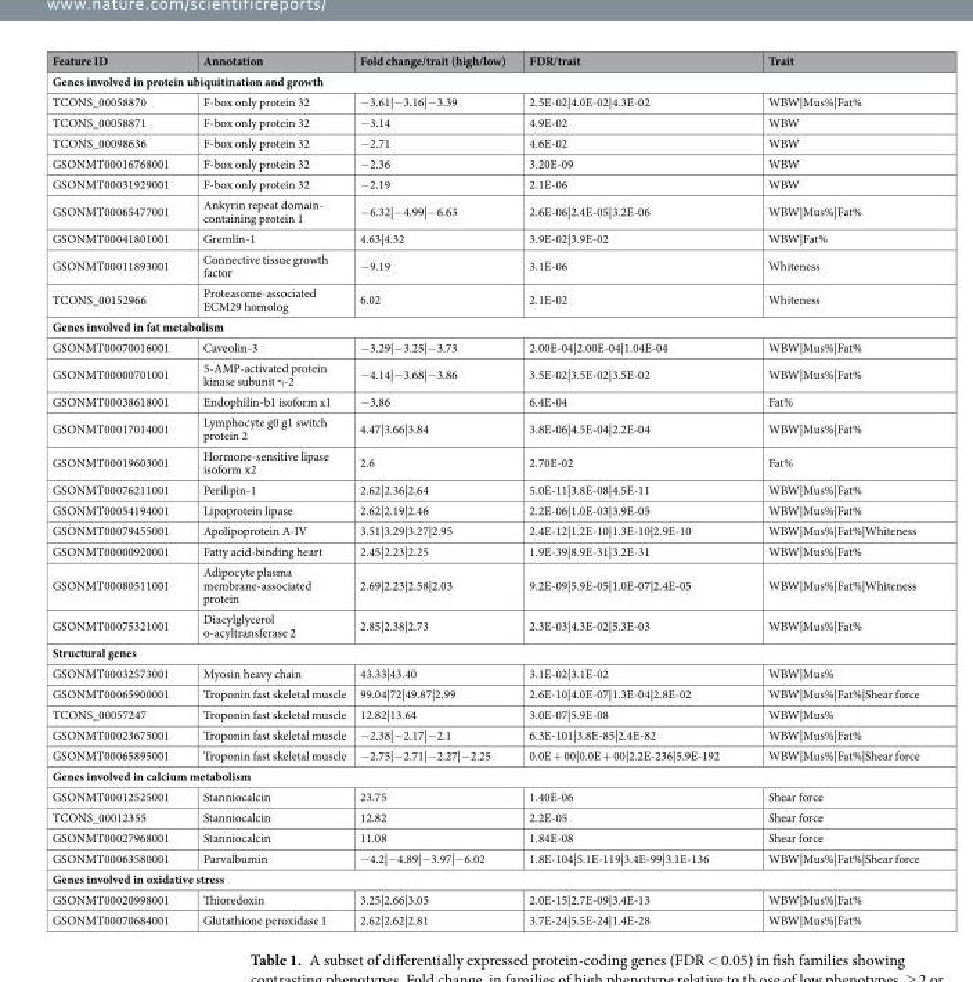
<table><thead><tr><td>Feature ID</td><td>Annotation</td><td>Fold change/trait (high/low)</td><td>FDR/trait</td><td>Trait</td></tr></thead><tbody><tr><td colspan="5">Genes involved in protein ubiquitination and growth</td></tr><tr><td>TCONS_00058870</td><td>F-box only protein 32</td><td>−3.61|−3.16|−3.39</td><td>2.5E-02|4.0E-02|4.3E-02</td><td>WBW|Mus%|Fat%</td></tr><tr><td>TCONS_00058871</td><td>F-box only protein 32</td><td>−3.14</td><td>4.9E-02</td><td>WBW</td></tr><tr><td>TCONS_00098636</td><td>F-box only protein 32</td><td>−2.71</td><td>4.6E-02</td><td>WBW</td></tr><tr><td>GSONMT00016768001</td><td>F-box only protein 32</td><td>−2.36</td><td>3.20E-09</td><td>WBW</td></tr><tr><td>GSONMT00031929001</td><td>F-box only protein 32</td><td>−2.19</td><td>2.1E-06</td><td>WBW</td></tr><tr><td>GSONMT00065477001</td><td>Ankyrin repeat domain- containing protein 1</td><td>−6.32|−4.99|−6.63</td><td>2.6E-06|2.4E-05|3.2E-06</td><td>WBW|Mus%|Fat%</td></tr><tr><td>GSONMT00041801001</td><td>Gremlin-1</td><td>4.63|4.32</td><td>3.9E-02|3.9E-02</td><td>WBW|Fat%</td></tr><tr><td>GSONMT00011893001</td><td>Connective tissue growth factor</td><td>−9.19</td><td>3.1E-06</td><td>Whiteness</td></tr><tr><td>TCONS_00152966</td><td>Proteasome-associated ECM29 homolog</td><td>6.02</td><td>2.1E-02</td><td>Whiteness</td></tr><tr><td colspan="5">Genes involved in fat metabolism</td></tr><tr><td>GSONMT00070016001</td><td>Caveolin-3</td><td>−3.29|−3.25|−3.73</td><td>2.00E-04|2.00E-04|1.04E-04</td><td>WBW|Mus%|Fat%</td></tr><tr><td>GSONMT00000701001</td><td>5-AMP-activated protein kinase subunit γ-2</td><td>−4.14|−3.68|−3.86</td><td>3.5E-02|3.5E-02|3.5E-02</td><td>WBW|Mus%|Fat%</td></tr><tr><td>GSONMT00038618001</td><td>Endophilin-b1 isoform x1</td><td>−3.86</td><td>6.4E-04</td><td>Fat%</td></tr><tr><td>GSONMT00017014001</td><td>Lymphocyte g0 g1 switch protein 2</td><td>4.47|3.66|3.84</td><td>3.8E-06|4.5E-04|2.2E-04</td><td>WBW|Mus%|Fat%</td></tr><tr><td>GSONMT00019603001</td><td>Hormone-sensitive lipase isoform x2</td><td>2.6</td><td>2.70E-02</td><td>Fat%</td></tr><tr><td>GSONMT00076211001</td><td>Perilipin-1</td><td>2.62|2.36|2.64</td><td>5.0E-11|3.8E-08|4.5E-11</td><td>WBW|Mus%|Fat%</td></tr><tr><td>GSONMT00054194001</td><td>Lipoprotein lipase</td><td>2.62|2.19|2.46</td><td>2.2E-06|1.0E-03|3.9E-05</td><td>WBW|Mus%|Fat%</td></tr><tr><td>GSONMT00079455001</td><td>Apolipoprotein A-IV</td><td>3.51|3.29|3.27|2.95</td><td>2.4E-12|1.2E-10|1.3E-10|2.9E-10</td><td>WBW|Mus%|Fat%|Whiteness</td></tr><tr><td>GSONMT00000920001</td><td>Fatty acid-binding heart</td><td>2.45|2.23|2.25</td><td>1.9E-39|8.9E-31|3.2E-31</td><td>WBW|Mus%|Fat%</td></tr><tr><td>GSONMT00080511001</td><td>Adipocyte plasma membrane-associated protein</td><td>2.69|2.23|2.58|2.03</td><td>9.2E-09|5.9E-05|1.0E-07|2.4E-05</td><td>WBW|Mus%|Fat%|Whiteness</td></tr><tr><td>GSONMT00075321001</td><td>Diacylglycerol o-acyltransferase 2</td><td>2.85|2.38|2.73</td><td>2.3E-03|4.3E-02|5.3E-03</td><td>WBW|Mus%|Fat%</td></tr><tr><td colspan="5">Structural genes</td></tr><tr><td>GSONMT00032573001</td><td>Myosin heavy chain</td><td>43.33|43.40</td><td>3.1E-02|3.1E-02</td><td>WBW|Mus%</td></tr><tr><td>GSONMT00065900001</td><td>Troponin fast skeletal muscle</td><td>99.04|72|49.87|2.99</td><td>2.6E-10|4.0E-07|1.3E-04|2.8E-02</td><td>WBW|Mus%|Fat%|Shear force</td></tr><tr><td>TCONS_00057247</td><td>Troponin fast skeletal muscle</td><td>12.82|13.64</td><td>3.0E-07|5.9E-08</td><td>WBW|Mus%</td></tr><tr><td>GSONMT00023675001</td><td>Troponin fast skeletal muscle</td><td>−2.38|−2.17|−2.1</td><td>6.3E-101|3.8E-85|2.4E-82</td><td>WBW|Mus%|Fat%</td></tr><tr><td>GSONMT00065895001</td><td>Troponin fast skeletal muscle</td><td>−2.75|−2.71|−2.27|−2.25</td><td>0.0E + 00|0.0E + 00|2.2E-236|5.9E-192</td><td>WBW|Mus%|Fat%|Shear force</td></tr><tr><td colspan="5">Genes involved in calcium metabolism</td></tr><tr><td>GSONMT00012525001</td><td>Stanniocalcin</td><td>23.75</td><td>1.40E-06</td><td>Shear force</td></tr><tr><td>TCONS_00012355</td><td>Stanniocalcin</td><td>12.82</td><td>2.2E-05</td><td>Shear force</td></tr><tr><td>GSONMT00027968001</td><td>Stanniocalcin</td><td>11.08</td><td>1.84E-08</td><td>Shear force</td></tr><tr><td>GSONMT00063580001</td><td>Parvalbumin</td><td>−4.2|−4.89|−3.97|−6.02</td><td>1.8E-104|5.1E-119|3.4E-99|3.1E-136</td><td>WBW|Mus%|Fat%|Shear force</td></tr><tr><td colspan="5">Genes involved in oxidative stress</td></tr><tr><td>GSONMT00020998001</td><td>Thioredoxin</td><td>3.25|2.66|3.05</td><td>2.0E-15|2.7E-09|3.4E-13</td><td>WBW|Mus%|Fat%</td></tr><tr><td>GSONMT00070684001</td><td>Glutathione peroxidase 1</td><td>2.62|2.62|2.81</td><td>3.7E-24|5.5E-24|1.4E-28</td><td>WBW|Mus%|Fat%</td></tr></tbody></table>